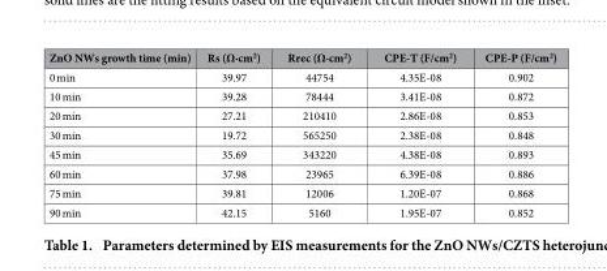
<table><thead><tr><td>ZnO NWs growth time (min)</td><td>Rs (Ω·cm<sup>2</sup>)</td><td>Rrec (Ω·cm<sup>2</sup>)</td><td>CPE-T (F/cm<sup>2</sup>)</td><td>CPE-P (F/cm<sup>2</sup>)</td></tr></thead><tbody><tr><td>0 min</td><td>39.97</td><td>44754</td><td>4.35E-08</td><td>0.902</td></tr><tr><td>10 min</td><td>39.28</td><td>78444</td><td>3.41E-08</td><td>0.872</td></tr><tr><td>20 min</td><td>27.21</td><td>210410</td><td>2.86E-08</td><td>0.853</td></tr><tr><td>30 min</td><td>19.72</td><td>565250</td><td>2.38E-08</td><td>0.848</td></tr><tr><td>45 min</td><td>35.69</td><td>343220</td><td>4.38E-08</td><td>0.893</td></tr><tr><td>60 min</td><td>37.98</td><td>23965</td><td>6.39E-08</td><td>0.886</td></tr><tr><td>75 min</td><td>39.81</td><td>12006</td><td>1.20E-07</td><td>0.868</td></tr><tr><td>90 min</td><td>42.15</td><td>5160</td><td>1.95E-07</td><td>0.852</td></tr></tbody></table>